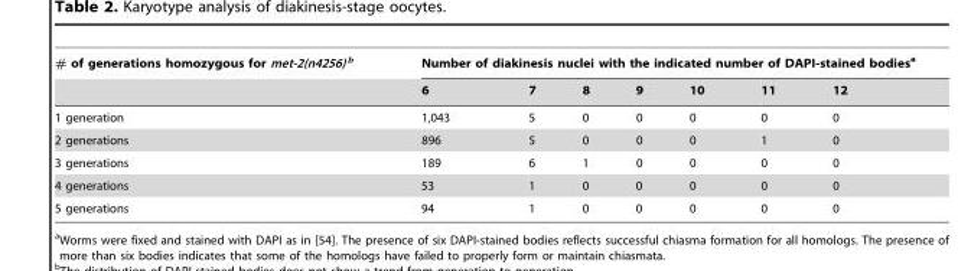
<table><thead><tr><td rowspan="2"># of generations homozygous for met-2(n4256) <sup>b</sup></td><td colspan="7">Number of diakinesis nuclei with the indicated number of DAPI-stained bodies<sup>a</sup></td></tr><tr><td>6</td><td>7</td><td>8</td><td>9</td><td>10</td><td>11</td><td>12</td></tr></thead><tbody><tr><td>1 generation</td><td>1,043</td><td>5</td><td>0</td><td>0</td><td>0</td><td>0</td><td>0</td></tr><tr><td>2 generations</td><td>896</td><td>5</td><td>0</td><td>0</td><td>0</td><td>1</td><td>0</td></tr><tr><td>3 generations</td><td>189</td><td>6</td><td>1</td><td>0</td><td>0</td><td>0</td><td>0</td></tr><tr><td>4 generations</td><td>53</td><td>1</td><td>0</td><td>0</td><td>0</td><td>0</td><td>0</td></tr><tr><td>5 generations</td><td>94</td><td>1</td><td>0</td><td>0</td><td>0</td><td>0</td><td>0</td></tr></tbody></table>